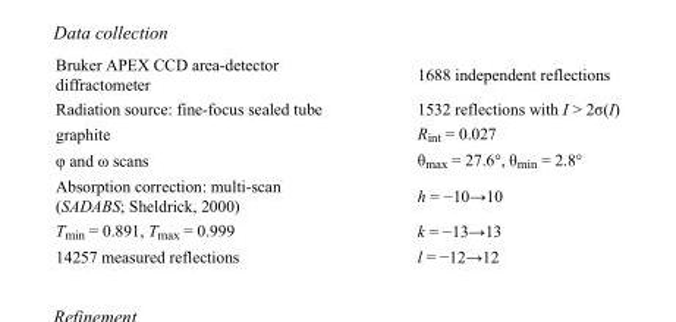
<table><tbody><tr><td>Bruker APEX CCD area-detector diffractometer</td><td>1688 independent reflections</td></tr><tr><td>Radiation source: fine-focus sealed tube</td><td>1532 reflections with I &gt; 2σ(I)</td></tr><tr><td>graphite</td><td>R<sub>int</sub> = 0.027</td></tr><tr><td>φ and ω scans</td><td>θ<sub>max</sub> = 27.6°, θ<sub>min</sub> = 2.8°</td></tr><tr><td>Absorption correction: multi-scan (SADABS; Sheldrick, 2000)</td><td>h = −10→10</td></tr><tr><td>T<sub>min</sub> = 0.891, T<sub>max</sub> = 0.999</td><td>k = −13→13</td></tr><tr><td>14257 measured reflections</td><td>l = −12→12</td></tr></tbody></table>